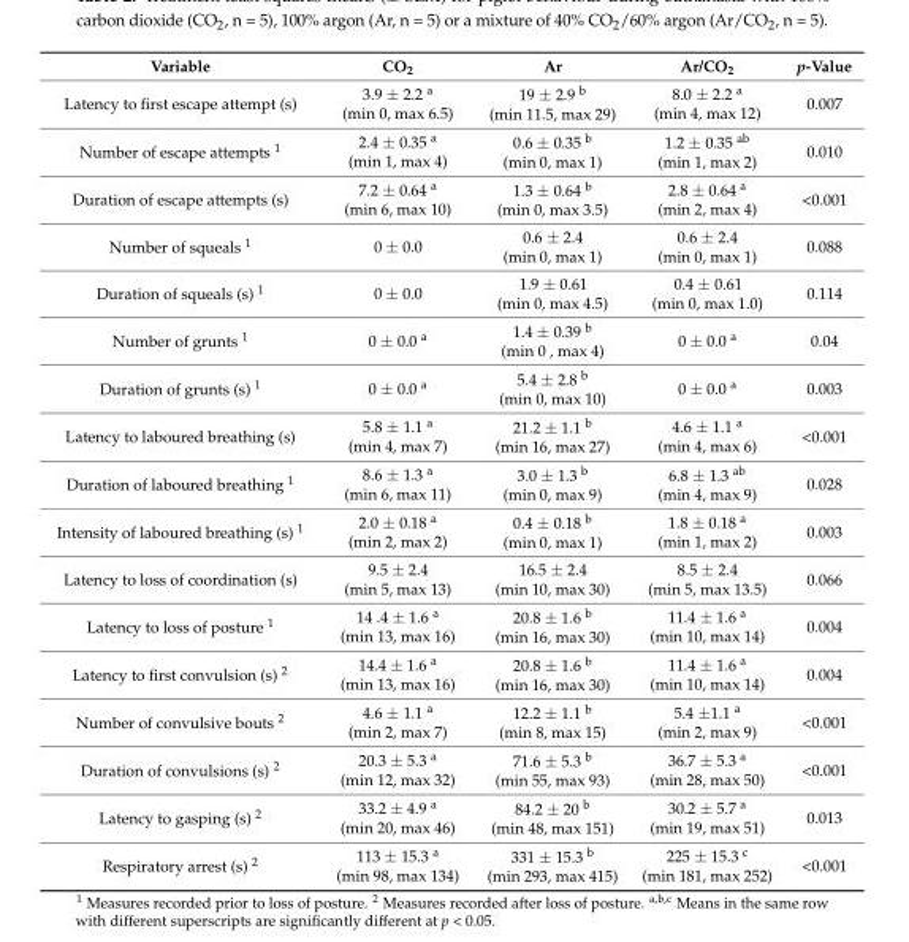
<table><thead><tr><td>Variable</td><td>CO<sub>2</sub></td><td>Ar</td><td>Ar/CO<sub>2</sub></td><td>p-Value</td></tr></thead><tbody><tr><td>Latency to first escape attempt (s)</td><td>3.9 ± 2.2 <sup>a</sup> (min 0, max 6.5)</td><td>19 ± 2.9 <sup>b</sup> (min 11.5, max 29)</td><td>8.0 ± 2.2 <sup>a</sup> (min 4, max 12)</td><td>0.007</td></tr><tr><td>Number of escape attempts <sup>1</sup></td><td>2.4 ± 0.35 <sup>a</sup> (min 1, max 4)</td><td>0.6 ± 0.35 <sup>b</sup> (min 0, max 1)</td><td>1.2 ± 0.35 <sup>ab</sup> (min 1, max 2)</td><td>0.010</td></tr><tr><td>Duration of escape attempts (s)</td><td>7.2 ± 0.64 <sup>a</sup> (min 6, max 10)</td><td>1.3 ± 0.64 <sup>b</sup> (min 0, max 3.5)</td><td>2.8 ± 0.64 <sup>a</sup> (min 2, max 4)</td><td>&lt;0.001</td></tr><tr><td>Number of squeals <sup>1</sup></td><td>0 ± 0.0</td><td>0.6 ± 2.4 (min 0, max 1)</td><td>0.6 ± 2.4 (min 0, max 1)</td><td>0.088</td></tr><tr><td>Duration of squeals (s) <sup>1</sup></td><td>0 ± 0.0</td><td>1.9 ± 0.61 (min 0, max 4.5)</td><td>0.4 ± 0.61 (min 0, max 1.0)</td><td>0.114</td></tr><tr><td>Number of grunts <sup>1</sup></td><td>0 ± 0.0 <sup>a</sup></td><td>1.4 ± 0.39 <sup>b</sup> (min 0 , max 4)</td><td>0 ± 0.0 <sup>a</sup></td><td>0.04</td></tr><tr><td>Duration of grunts (s) <sup>1</sup></td><td>0 ± 0.0 <sup>a</sup></td><td>5.4 ± 2.8 <sup>b</sup> (min 0, max 10)</td><td>0 ± 0.0 <sup>a</sup></td><td>0.003</td></tr><tr><td>Latency to laboured breathing (s)</td><td>5.8 ± 1.1 <sup>a</sup> (min 4, max 7)</td><td>21.2 ± 1.1 <sup>b</sup> (min 16, max 27)</td><td>4.6 ± 1.1 <sup>a</sup> (min 4, max 6)</td><td>&lt;0.001</td></tr><tr><td>Duration of laboured breathing <sup>1</sup></td><td>8.6 ± 1.3 <sup>a</sup> (min 6, max 11)</td><td>3.0 ± 1.3 <sup>b</sup> (min 0, max 9)</td><td>6.8 ± 1.3 <sup>ab</sup> (min 4, max 9)</td><td>0.028</td></tr><tr><td>Intensity of laboured breathing (s) <sup>1</sup></td><td>2.0 ± 0.18 <sup>a</sup> (min 2, max 2)</td><td>0.4 ± 0.18 <sup>b</sup> (min 0, max 1)</td><td>1.8 ± 0.18 <sup>a</sup> (min 1, max 2)</td><td>0.003</td></tr><tr><td>Latency to loss of coordination (s)</td><td>9.5 ± 2.4 (min 5, max 13)</td><td>16.5 ± 2.4 (min 10, max 30)</td><td>8.5 ± 2.4 (min 5, max 13.5)</td><td>0.066</td></tr><tr><td>Latency to loss of posture <sup>1</sup></td><td>14 .4 ± 1.6 <sup>a</sup> (min 13, max 16)</td><td>20.8 ± 1.6 <sup>b</sup> (min 16, max 30)</td><td>11.4 ± 1.6 <sup>a</sup> (min 10, max 14)</td><td>0.004</td></tr><tr><td>Latency to first convulsion (s) <sup>2</sup></td><td>14.4 ± 1.6 <sup>a</sup> (min 13, max 16)</td><td>20.8 ± 1.6 <sup>b</sup> (min 16, max 30)</td><td>11.4 ± 1.6 <sup>a</sup> (min 10, max 14)</td><td>0.004</td></tr><tr><td>Number of convulsive bouts <sup>2</sup></td><td>4.6 ± 1.1 <sup>a</sup> (min 2, max 7)</td><td>12.2 ± 1.1 <sup>b</sup> (min 8, max 15)</td><td>5.4 ±1.1 <sup>a</sup> (min 2, max 9)</td><td>&lt;0.001</td></tr><tr><td>Duration of convulsions (s) <sup>2</sup></td><td>20.3 ± 5.3 <sup>a</sup> (min 12, max 32)</td><td>71.6 ± 5.3 <sup>b</sup> (min 55, max 93)</td><td>36.7 ± 5.3 <sup>a</sup> (min 28, max 50)</td><td>&lt;0.001</td></tr><tr><td>Latency to gasping (s) <sup>2</sup></td><td>33.2 ± 4.9 <sup>a</sup> (min 20, max 46)</td><td>84.2 ± 20 <sup>b</sup> (min 48, max 151)</td><td>30.2 ± 5.7 <sup>a</sup> (min 19, max 51)</td><td>0.013</td></tr><tr><td>Respiratory arrest (s) <sup>2</sup></td><td>113 ± 15.3 <sup>a</sup> (min 98, max 134)</td><td>331 ± 15.3 <sup>b</sup> (min 293, max 415)</td><td>225 ± 15.3 <sup>c</sup> (min 181, max 252)</td><td>&lt;0.001</td></tr></tbody></table>